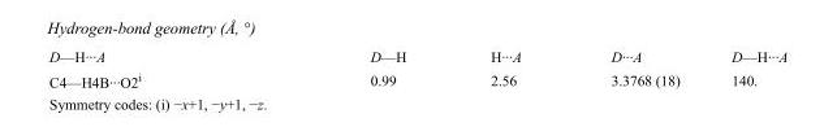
<table><tbody><tr><td>D—H···A</td><td>D—H</td><td>H···A</td><td>D···A</td><td>D—H···A</td></tr><tr><td>C4—H4B···O2<sup>i</sup></td><td>0.99</td><td>2.56</td><td>3.3768 (18)</td><td>140.</td></tr></tbody></table>